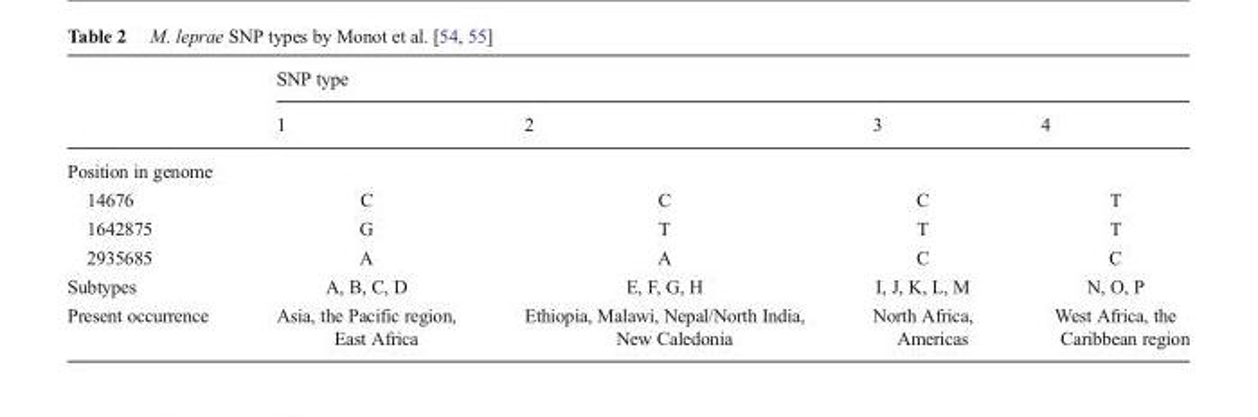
<table><thead><tr><td rowspan="2"></td><td colspan="4">SNP type</td></tr><tr><td>1</td><td>2</td><td>3</td><td>4</td></tr></thead><tbody><tr><td colspan="5">Position in genome</td></tr><tr><td>14676</td><td>C</td><td>C</td><td>C</td><td>T</td></tr><tr><td>1642875</td><td>G</td><td>T</td><td>T</td><td>T</td></tr><tr><td>2935685</td><td>A</td><td>A</td><td>C</td><td>C</td></tr><tr><td>Subtypes</td><td>A, B, C, D</td><td>E, F, G, H</td><td>I, J, K, L, M</td><td>N, O, P</td></tr><tr><td>Present occurrence</td><td>Asia, the Pacific region, East Africa</td><td>Ethiopia, Malawi, Nepal/North India, New Caledonia</td><td>North Africa, Americas</td><td>West Africa, the Caribbean region</td></tr></tbody></table>